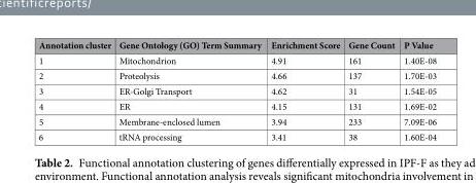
<table><thead><tr><td>Annotation cluster</td><td>Gene Ontology (GO) Term Summary</td><td>Enrichment Score</td><td>Gene Count</td><td>P Value</td></tr></thead><tbody><tr><td>1</td><td>Mitochondrion</td><td>4.91</td><td>161</td><td>1.40E-08</td></tr><tr><td>2</td><td>Proteolysis</td><td>4.66</td><td>137</td><td>1.70E-03</td></tr><tr><td>3</td><td>ER-Golgi Transport</td><td>4.62</td><td>31</td><td>1.54E-05</td></tr><tr><td>4</td><td>ER</td><td>4.15</td><td>131</td><td>1.69E-02</td></tr><tr><td>5</td><td>Membrane-enclosed lumen</td><td>3.94</td><td>233</td><td>7.09E-06</td></tr><tr><td>6</td><td>tRNA processing</td><td>3.41</td><td>38</td><td>1.60E-04</td></tr></tbody></table>